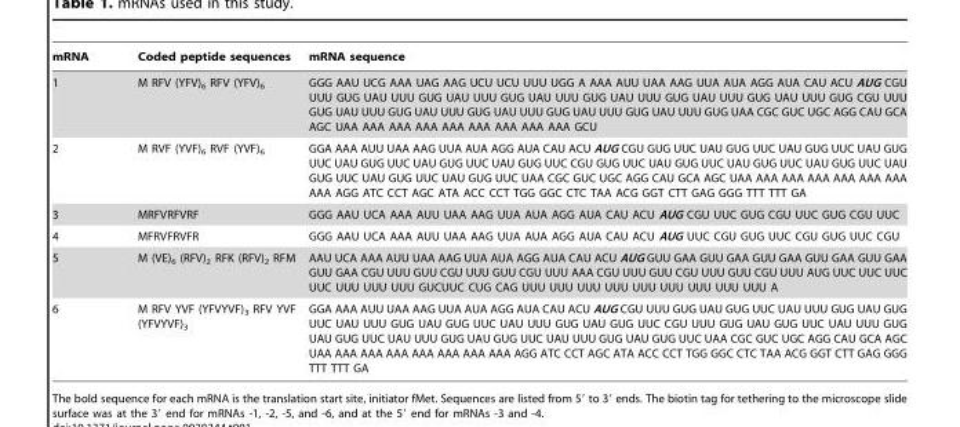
<table><thead><tr><td>mRNA</td><td>Coded peptide sequences</td><td>mRNA sequence</td></tr></thead><tbody><tr><td>1</td><td>M RFV (YFV)<sub>6</sub> RFV (YFV)<sub>6</sub></td><td>GGG AAU UCG AAA UAG AAG UCU UCU UUU UGG A AAA AUU UAA AAG UUA AUA AGG AUA CAU ACU AUG CGU UUU GUG UAU UUU GUG UAU UUU GUG UAU UUU GUG UAU UUU GUG UAU UUU GUG UAU UUU GUG CGU UUU GUG UAU UUU GUG UAU UUU GUG UAU UUU GUG UAU UUU GUG UAU UUU GUG UAA CGC GUC UGC AGG CAU GCA AGC UAA AAA AAA AAA AAA AAA AAA AAA AAA GCU</td></tr><tr><td>2</td><td>M RVF (YVF)<sub>6</sub> RVF (YVF)<sub>6</sub></td><td>GGA AAA AUU UAA AAG UUA AUA AGG AUA CAU ACU AUG CGU GUG UUC UAU GUG UUC UAU GUG UUC UAU GUG UUC UAU GUG UUC UAU GUG UUC UAU GUG UUC CGU GUG UUC UAU GUG UUC UAU GUG UUC UAU GUG UUC UAU GUG UUC UAU GUG UUC UAU GUG UUC UAA CGC GUC UGC AGG CAU GCA AGC UAA AAA AAA AAA AAA AAA AAA AAA AGG ATC CCT AGC ATA ACC CCT TGG GGC CTC TAA ACG GGT CTT GAG GGG TTT TTT GA</td></tr><tr><td>3</td><td>MRFVRFVRF</td><td>GGG AAU UCA AAA AUU UAA AAG UUA AUA AGG AUA CAU ACU AUG CGU UUC GUG CGU UUC GUG CGU UUC</td></tr><tr><td>4</td><td>MFRVFRVFR</td><td>GGG AAU UCA AAA AUU UAA AAG UUA AUA AGG AUA CAU ACU AUG UUC CGU GUG UUC CGU GUG UUC CGU</td></tr><tr><td>5</td><td>M (VE)<sub>6</sub> (RFV)<sub>2</sub> RFK (RFV)<sub>2</sub> RFM</td><td>AAU UCA AAA AUU UAA AAG UUA AUA AGG AUA CAU ACU AUG GUU GAA GUU GAA GUU GAA GUU GAA GUU GAA GUU GAA CGU UUU GUU CGU UUU GUU CGU UUU AAA CGU UUU GUU CGU UUU GUU CGU UUU AUG UUC UUC UUC UUC UUU UUU UUU GUCUUC CUG CAG UUU UUU UUU UUU UUU UUU UUU UUU UUU A</td></tr><tr><td>6</td><td>M RFV YVF (YFVYVF)<sub>3</sub> RFV YVF (YFVYVF)<sub>3</sub></td><td>GGA AAA AUU UAA AAG UUA AUA AGG AUA CAU ACU AUG CGU UUU GUG UAU GUG UUC UAU UUU GUG UAU GUG UUC UAU UUU GUG UAU GUG UUC UAU UUU GUG UAU GUG UUC CGU UUU GUG UAU GUG UUC UAU UUU GUG UAU GUG UUC UAU UUU GUG UAU GUG UUC UAU UUU GUG UAU GUG UUC UAA CGC GUC UGC AGG CAU GCA AGC UAA AAA AAA AAA AAA AAA AAA AAA AGG ATC CCT AGC ATA ACC CCT TGG GGC CTC TAA ACG GGT CTT GAG GGG TTT TTT GA</td></tr></tbody></table>